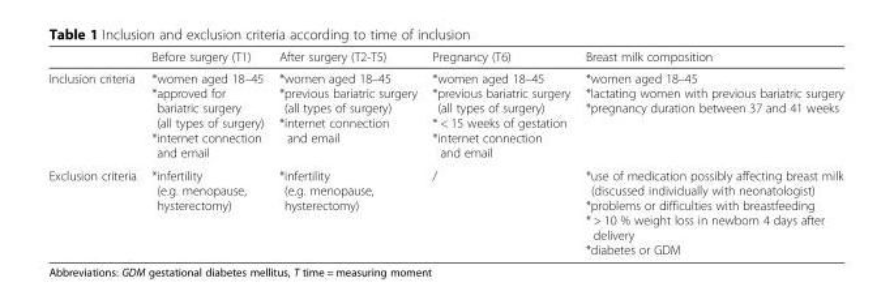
<table><thead><tr><td></td><td>Before surgery (T1)</td><td>After surgery (T2-T5)</td><td>Pregnancy (T6)</td><td>Breast milk composition</td></tr></thead><tbody><tr><td>Inclusion criteria</td><td>*women aged 18–45 *approved for bariatric surgery (all types of surgery) *internet connection and email</td><td>*women aged 18–45 *previous bariatric surgery (all types of surgery) *internet connection and email</td><td>*women aged 18–45 *previous bariatric surgery (all types of surgery) * &lt; 15 weeks of gestation *internet connection and email</td><td>*women aged 18–45 *lactating women with previous bariatric surgery *pregnancy duration between 37 and 41 weeks</td></tr><tr><td>Exclusion criteria</td><td>*infertility (e.g. menopause, hysterectomy)</td><td>*infertility (e.g. menopause, hysterectomy)</td><td>/</td><td>*use of medication possibly affecting breast milk (discussed individually with neonatologist) *problems or difficulties with breastfeeding * &gt; 10 % weight loss in newborn 4 days after delivery *diabetes or GDM</td></tr></tbody></table>